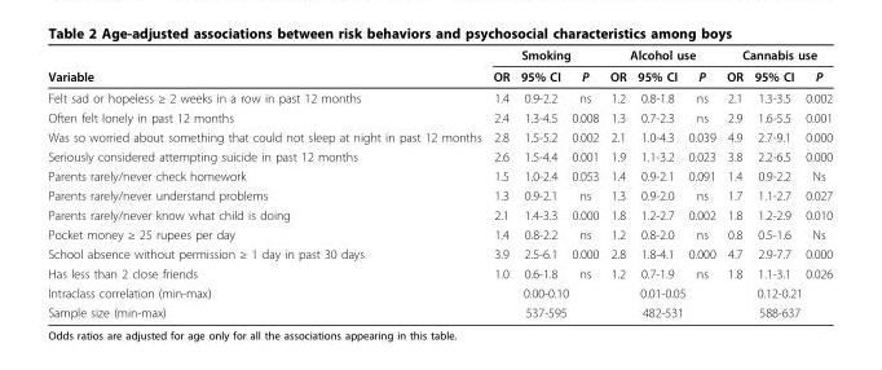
<table><thead><tr><td rowspan="2">Variable</td><td colspan="3">Smoking</td><td colspan="3">Alcohol use</td><td colspan="3">Cannabis use</td></tr><tr><td>OR</td><td>95% CI</td><td>P</td><td>OR</td><td>95% CI</td><td>P</td><td>OR</td><td>95% CI</td><td>P</td></tr></thead><tbody><tr><td>Felt sad or hopeless ≥ 2 weeks in a row in past 12 months</td><td>1.4</td><td>0.9-2.2</td><td>ns</td><td>1.2</td><td>0.8-1.8</td><td>ns</td><td>2.1</td><td>1.3-3.5</td><td>0.002</td></tr><tr><td>Often felt lonely in past 12 months</td><td>2.4</td><td>1.3-4.5</td><td>0.008</td><td>1.3</td><td>0.7-2.3</td><td>ns</td><td>2.9</td><td>1.6-5.5</td><td>0.001</td></tr><tr><td>Was so worried about something that could not sleep at night in past 12 months</td><td>2.8</td><td>1.5-5.2</td><td>0.002</td><td>2.1</td><td>1.0-4.3</td><td>0.039</td><td>4.9</td><td>2.7-9.1</td><td>0.000</td></tr><tr><td>Seriously considered attempting suicide in past 12 months</td><td>2.6</td><td>1.5-4.4</td><td>0.001</td><td>1.9</td><td>1.1-3.2</td><td>0.023</td><td>3.8</td><td>2.2-6.5</td><td>0.000</td></tr><tr><td>Parents rarely/never check homework</td><td>1.5</td><td>1.0-2.4</td><td>0.053</td><td>1.4</td><td>0.9-2.1</td><td>0.091</td><td>1.4</td><td>0.9-2.2</td><td>Ns</td></tr><tr><td>Parents rarely/never understand problems</td><td>1.3</td><td>0.9-2.1</td><td>ns</td><td>1.3</td><td>0.9-2.0</td><td>ns</td><td>1.7</td><td>1.1-2.7</td><td>0.027</td></tr><tr><td>Parents rarely/never know what child is doing</td><td>2.1</td><td>1.4-3.3</td><td>0.000</td><td>1.8</td><td>1.2-2.7</td><td>0.002</td><td>1.8</td><td>1.2-2.9</td><td>0.010</td></tr><tr><td>Pocket money ≥ 25 rupees per day</td><td>1.4</td><td>0.8-2.2</td><td>ns</td><td>1.2</td><td>0.8-2.0</td><td>ns</td><td>0.8</td><td>0.5-1.6</td><td>Ns</td></tr><tr><td>School absence without permission ≥ 1 day in past 30 days</td><td>3.9</td><td>2.5-6.1</td><td>0.000</td><td>2.8</td><td>1.8-4.1</td><td>0.000</td><td>4.7</td><td>2.9-7.7</td><td>0.000</td></tr><tr><td>Has less than 2 close friends</td><td>1.0</td><td>0.6-1.8</td><td>ns</td><td>1.2</td><td>0.7-1.9</td><td>ns</td><td>1.8</td><td>1.1-3.1</td><td>0.026</td></tr><tr><td>Intraclass correlation (min-max)</td><td colspan="3">0.00-0.10</td><td colspan="3">0.01-0.05</td><td colspan="3">0.12-0.21</td></tr><tr><td>Sample size (min-max)</td><td colspan="3">537-595</td><td colspan="3">482-531</td><td colspan="3">588-637</td></tr></tbody></table>